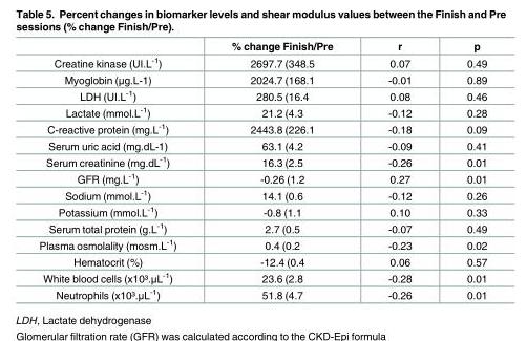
<table><thead><tr><td></td><td>% change Finish/Pre</td><td>r</td><td>p</td></tr></thead><tbody><tr><td>Creatine kinase (UI.L<sup>-1</sup>)</td><td>2697.7 (348.5</td><td>0.07</td><td>0.49</td></tr><tr><td>Myoglobin (μg.L-1)</td><td>2024.7 (168.1</td><td>-0.01</td><td>0.89</td></tr><tr><td>LDH (UI.L<sup>-1</sup>)</td><td>280.5 (16.4</td><td>0.08</td><td>0.46</td></tr><tr><td>Lactate (mmol.L<sup>-1</sup>)</td><td>21.2 (4.3</td><td>-0.12</td><td>0.28</td></tr><tr><td>C-reactive protein (mg.L<sup>-1</sup>)</td><td>2443.8 (226.1</td><td>-0.18</td><td>0.09</td></tr><tr><td>Serum uric acid (mg.dL-1)</td><td>63.1 (4.2</td><td>-0.09</td><td>0.41</td></tr><tr><td>Serum creatinine (mg.dL<sup>-1</sup>)</td><td>16.3 (2.5</td><td>-0.26</td><td>0.01</td></tr><tr><td>GFR (mg.L<sup>-1</sup>)</td><td>-0.26 (1.2</td><td>0.27</td><td>0.01</td></tr><tr><td>Sodium (mmol.L<sup>-1</sup>)</td><td>14.1 (0.6</td><td>-0.12</td><td>0.26</td></tr><tr><td>Potassium (mmol.L<sup>-1</sup>)</td><td>-0.8 (1.1</td><td>0.10</td><td>0.33</td></tr><tr><td>Serum total protein (g.L<sup>-1</sup>)</td><td>2.7 (0.5</td><td>-0.07</td><td>0.49</td></tr><tr><td>Plasma osmolality (mosm.L<sup>-1</sup>)</td><td>0.4 (0.2</td><td>-0.23</td><td>0.02</td></tr><tr><td>Hematocrit (%)</td><td>-12.4 (0.4</td><td>0.06</td><td>0.57</td></tr><tr><td>White blood cells (x10³.μL<sup>-1</sup>)</td><td>23.6 (2.8</td><td>-0.28</td><td>0.01</td></tr><tr><td>Neutrophils (x10³.μL<sup>-1</sup>)</td><td>51.8 (4.7</td><td>-0.26</td><td>0.01</td></tr></tbody></table>